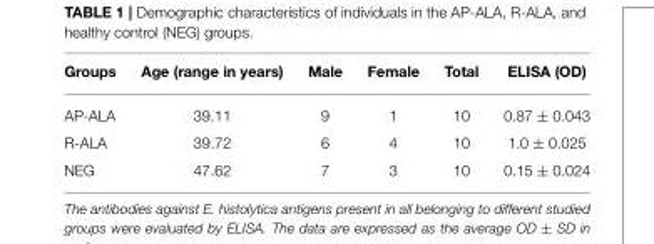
<table><thead><tr><td>Groups</td><td>Age (range in years)</td><td>Male</td><td>Female</td><td>Total</td><td>ELISA (OD)</td></tr></thead><tbody><tr><td>AP-ALA</td><td>39.11</td><td>9</td><td>1</td><td>10</td><td>0.87 ± 0.043</td></tr><tr><td>R-ALA</td><td>39.72</td><td>6</td><td>4</td><td>10</td><td>1.0 ± 0.025</td></tr><tr><td>NEG</td><td>47.62</td><td>7</td><td>3</td><td>10</td><td>0.15 ± 0.024</td></tr></tbody></table>